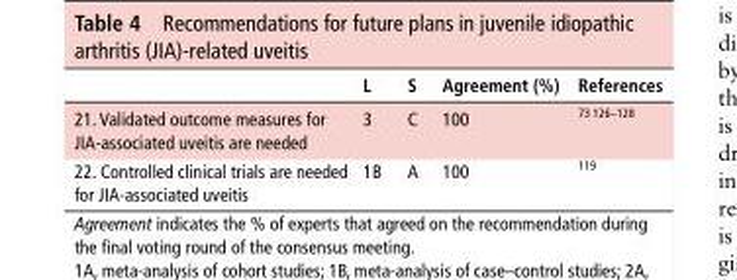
<table><thead><tr><td></td><td>L</td><td>s</td><td>Agreement (%)</td><td>references</td></tr></thead><tbody><tr><td>21. Validated outcome measures for JIA-associated uveitis are needed</td><td>3</td><td>C</td><td>100</td><td>73 126–128</td></tr><tr><td>22. Controlled clinical trials are needed for JIA-associated uveitis</td><td>1B</td><td>A</td><td>100</td><td>119</td></tr></tbody></table>